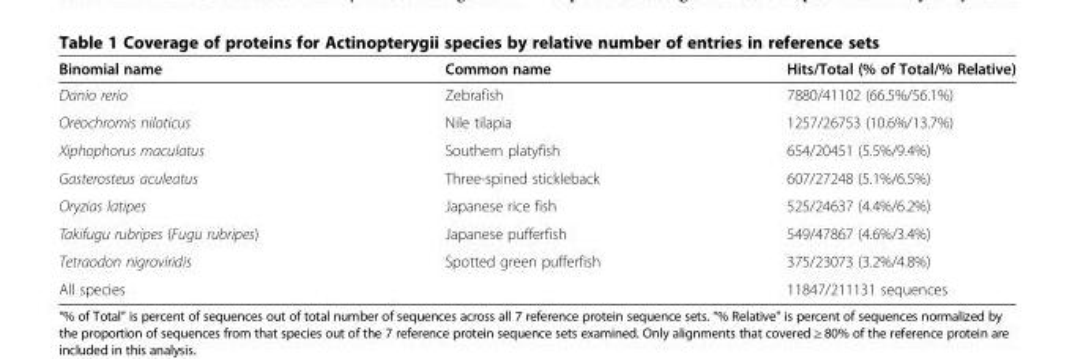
<table><thead><tr><td>Binomial name</td><td>Common name</td><td>Hits/Total (% of Total/% Relative)</td></tr></thead><tbody><tr><td>Danio rerio</td><td>Zebrafish</td><td>7880/41102 (66.5%/56.1%)</td></tr><tr><td>Oreochromis niloticus</td><td>Nile tilapia</td><td>1257/26753 (10.6%/13.7%)</td></tr><tr><td>Xiphophorus maculatus</td><td>Southern platyfish</td><td>654/20451 (5.5%/9.4%)</td></tr><tr><td>Gasterosteus aculeatus</td><td>Three-spined stickleback</td><td>607/27248 (5.1%/6.5%)</td></tr><tr><td>Oryzias latipes</td><td>Japanese rice fish</td><td>525/24637 (4.4%/6.2%)</td></tr><tr><td>Takifugu rubripes (Fugu rubripes)</td><td>Japanese pufferfish</td><td>549/47867 (4.6%/3.4%)</td></tr><tr><td>Tetraodon nigroviridis</td><td>Spotted green pufferfish</td><td>375/23073 (3.2%/4.8%)</td></tr><tr><td>All species</td><td></td><td>11847/211131 sequences</td></tr></tbody></table>